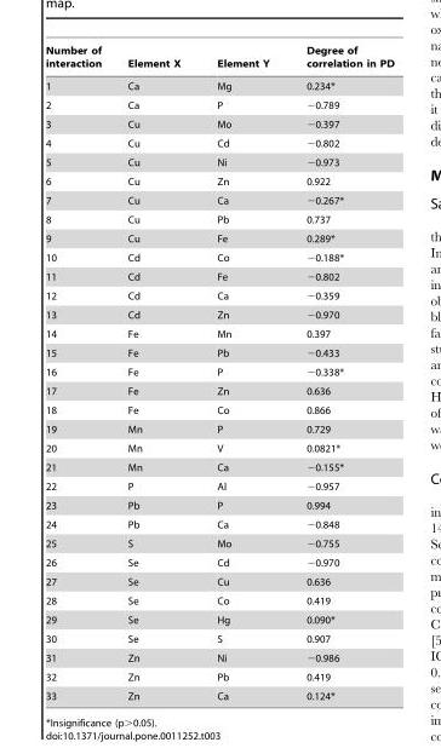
<table><thead><tr><td>Number of interaction</td><td>Element X</td><td>Element Y</td><td>Degree of correlation in PD</td></tr></thead><tbody><tr><td>1</td><td>Ca</td><td>Mg</td><td>0.234*</td></tr><tr><td>2</td><td>Ca</td><td>P</td><td>−0.789</td></tr><tr><td>3</td><td>Cu</td><td>Mo</td><td>−0.397</td></tr><tr><td>4</td><td>Cu</td><td>Cd</td><td>−0.802</td></tr><tr><td>5</td><td>Cu</td><td>Ni</td><td>−0.973</td></tr><tr><td>6</td><td>Cu</td><td>Zn</td><td>0.922</td></tr><tr><td>7</td><td>Cu</td><td>Ca</td><td>−0.267*</td></tr><tr><td>8</td><td>Cu</td><td>Pb</td><td>0.737</td></tr><tr><td>9</td><td>Cu</td><td>Fe</td><td>0.289*</td></tr><tr><td>10</td><td>Cd</td><td>Co</td><td>−0.188*</td></tr><tr><td>11</td><td>Cd</td><td>Fe</td><td>−0.802</td></tr><tr><td>12</td><td>Cd</td><td>Ca</td><td>−0.359</td></tr><tr><td>13</td><td>Cd</td><td>Zn</td><td>−0.970</td></tr><tr><td>14</td><td>Fe</td><td>Mn</td><td>0.397</td></tr><tr><td>15</td><td>Fe</td><td>Pb</td><td>−0.433</td></tr><tr><td>16</td><td>Fe</td><td>P</td><td>−0.338*</td></tr><tr><td>17</td><td>Fe</td><td>Zn</td><td>0.636</td></tr><tr><td>18</td><td>Fe</td><td>Co</td><td>0.866</td></tr><tr><td>19</td><td>Mn</td><td>P</td><td>0.729</td></tr><tr><td>20</td><td>Mn</td><td>V</td><td>0.0821*</td></tr><tr><td>21</td><td>Mn</td><td>Ca</td><td>−0.155*</td></tr><tr><td>22</td><td>P</td><td>Al</td><td>−0.957</td></tr><tr><td>23</td><td>Pb</td><td>P</td><td>0.994</td></tr><tr><td>24</td><td>Pb</td><td>Ca</td><td>−0.848</td></tr><tr><td>25</td><td>S</td><td>Mo</td><td>−0.755</td></tr><tr><td>26</td><td>Se</td><td>Cd</td><td>−0.970</td></tr><tr><td>27</td><td>Se</td><td>Cu</td><td>0.636</td></tr><tr><td>28</td><td>Se</td><td>Co</td><td>0.419</td></tr><tr><td>29</td><td>Se</td><td>Hg</td><td>0.090*</td></tr><tr><td>30</td><td>Se</td><td>S</td><td>0.907</td></tr><tr><td>31</td><td>Zn</td><td>Ni</td><td>−0.986</td></tr><tr><td>32</td><td>Zn</td><td>Pb</td><td>0.419</td></tr><tr><td>33</td><td>Zn</td><td>Ca</td><td>0.124*</td></tr></tbody></table>